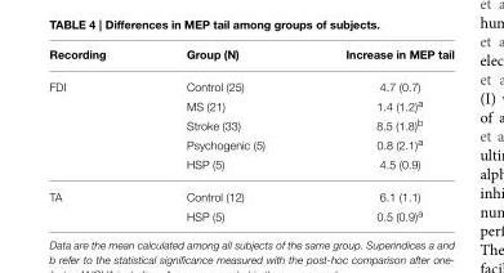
<table><thead><tr><td>Recording</td><td>Group (N)</td><td>Increase in MEP tail</td></tr></thead><tbody><tr><td rowspan="5">FDI</td><td>Control (25)</td><td>4.7 (0.7)</td></tr><tr><td>MS (21)</td><td>1.4 (1.2)<sup>a</sup></td></tr><tr><td>Stroke (33)</td><td>8.5 (1.8)<sup>b</sup></td></tr><tr><td>Psychogenic (5)</td><td>0.8 (2.1)<sup>a</sup></td></tr><tr><td>HSP (5)</td><td>4.5 (0.9)</td></tr><tr><td rowspan="2">TA</td><td>Control (12)</td><td>6.1 (1.1)</td></tr><tr><td>HSP (5)</td><td>0.5 (0.9)<sup>a</sup></td></tr></tbody></table>